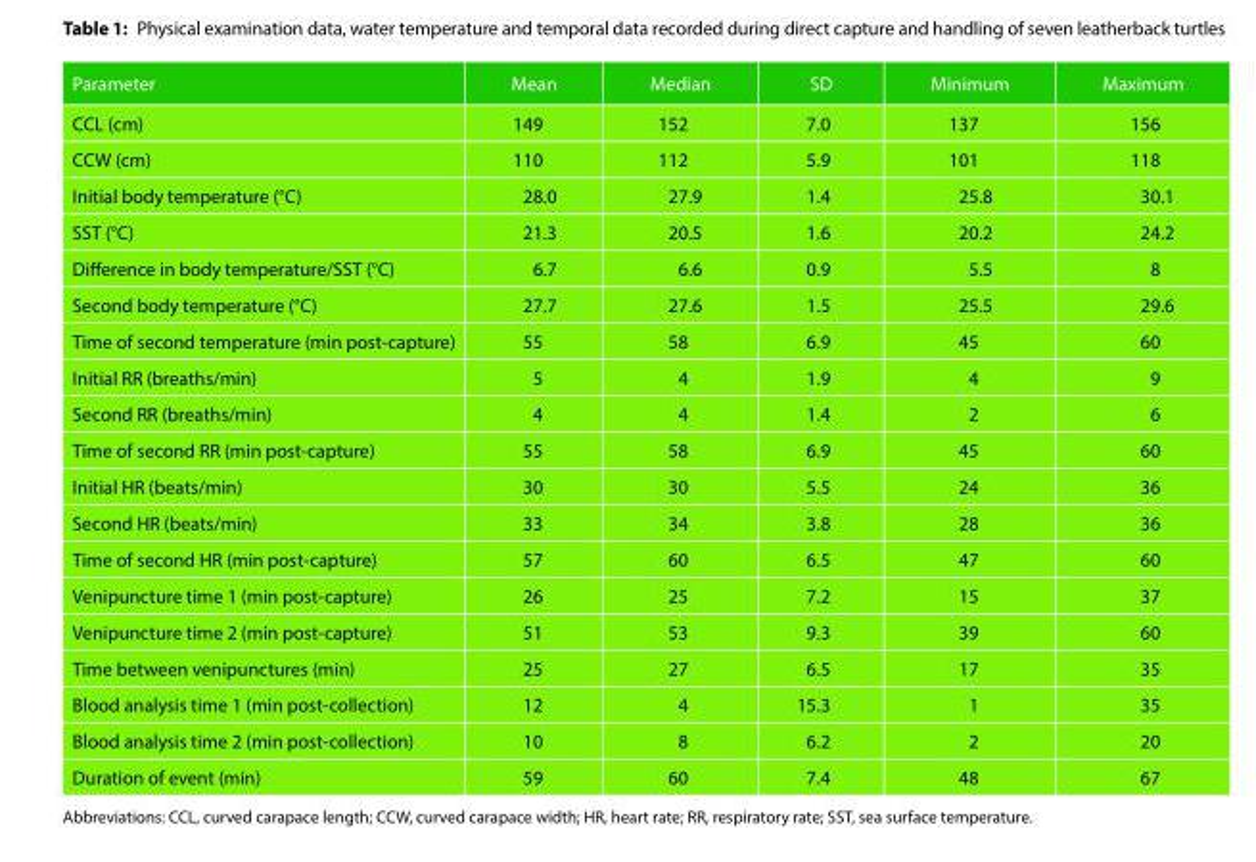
<table><thead><tr><td>Parameter</td><td>Mean</td><td>Median</td><td>SD</td><td>Minimum</td><td>Maximum</td></tr></thead><tbody><tr><td>CCL (cm)</td><td>149</td><td>152</td><td>7.0</td><td>137</td><td>156</td></tr><tr><td>CCW (cm)</td><td>110</td><td>112</td><td>5.9</td><td>101</td><td>118</td></tr><tr><td>Initial body temperature (°C)</td><td>28.0</td><td>27.9</td><td>1.4</td><td>25.8</td><td>30.1</td></tr><tr><td>SST (°C)</td><td>21.3</td><td>20.5</td><td>1.6</td><td>20.2</td><td>24.2</td></tr><tr><td>Difference in body temperature/SST (°C)</td><td>6.7</td><td>6.6</td><td>0.9</td><td>5.5</td><td>8</td></tr><tr><td>Second body temperature (°C)</td><td>27.7</td><td>27.6</td><td>1.5</td><td>25.5</td><td>29.6</td></tr><tr><td>Time of second temperature (min post-capture)</td><td>55</td><td>58</td><td>6.9</td><td>45</td><td>60</td></tr><tr><td>Initial RR (breaths/min)</td><td>5</td><td>4</td><td>1.9</td><td>4</td><td>9</td></tr><tr><td>Second RR (breaths/min)</td><td>4</td><td>4</td><td>1.4</td><td>2</td><td>6</td></tr><tr><td>Time of second RR (min post-capture)</td><td>55</td><td>58</td><td>6.9</td><td>45</td><td>60</td></tr><tr><td>Initial HR (beats/min)</td><td>30</td><td>30</td><td>5.5</td><td>24</td><td>36</td></tr><tr><td>Second HR (beats/min)</td><td>33</td><td>34</td><td>3.8</td><td>28</td><td>36</td></tr><tr><td>Time of second HR (min post-capture)</td><td>57</td><td>60</td><td>6.5</td><td>47</td><td>60</td></tr><tr><td>Venipuncture time 1 (min post-capture)</td><td>26</td><td>25</td><td>7.2</td><td>15</td><td>37</td></tr><tr><td>Venipuncture time 2 (min post-capture)</td><td>51</td><td>53</td><td>9.3</td><td>39</td><td>60</td></tr><tr><td>Time between venipunctures (min)</td><td>25</td><td>27</td><td>6.5</td><td>17</td><td>35</td></tr><tr><td>Blood analysis time 1 (min post-collection)</td><td>12</td><td>4</td><td>15.3</td><td>1</td><td>35</td></tr><tr><td>Blood analysis time 2 (min post-collection)</td><td>10</td><td>8</td><td>6.2</td><td>2</td><td>20</td></tr><tr><td>Duration of event (min)</td><td>59</td><td>60</td><td>7.4</td><td>48</td><td>67</td></tr></tbody></table>